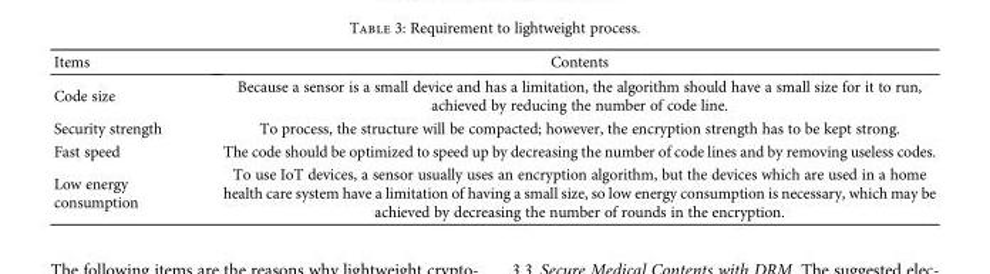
<table><thead><tr><td>Items</td><td>Contents</td></tr></thead><tbody><tr><td>Code size</td><td>Because a sensor is a small device and has a limitation, the algorithm should have a small size for it to run, achieved by reducing the number of code line.</td></tr><tr><td>Security strength</td><td>To process, the structure will be compacted; however, the encryption strength has to be kept strong.</td></tr><tr><td>Fast speed</td><td>The code should be optimized to speed up by decreasing the number of code lines and by removing useless codes.</td></tr><tr><td>Low energy consumption</td><td>To use IoT devices, a sensor usually uses an encryption algorithm, but the devices which are used in a home health care system have a limitation of having a small size, so low energy consumption is necessary, which may be achieved by decreasing the number of rounds in the encryption.</td></tr></tbody></table>